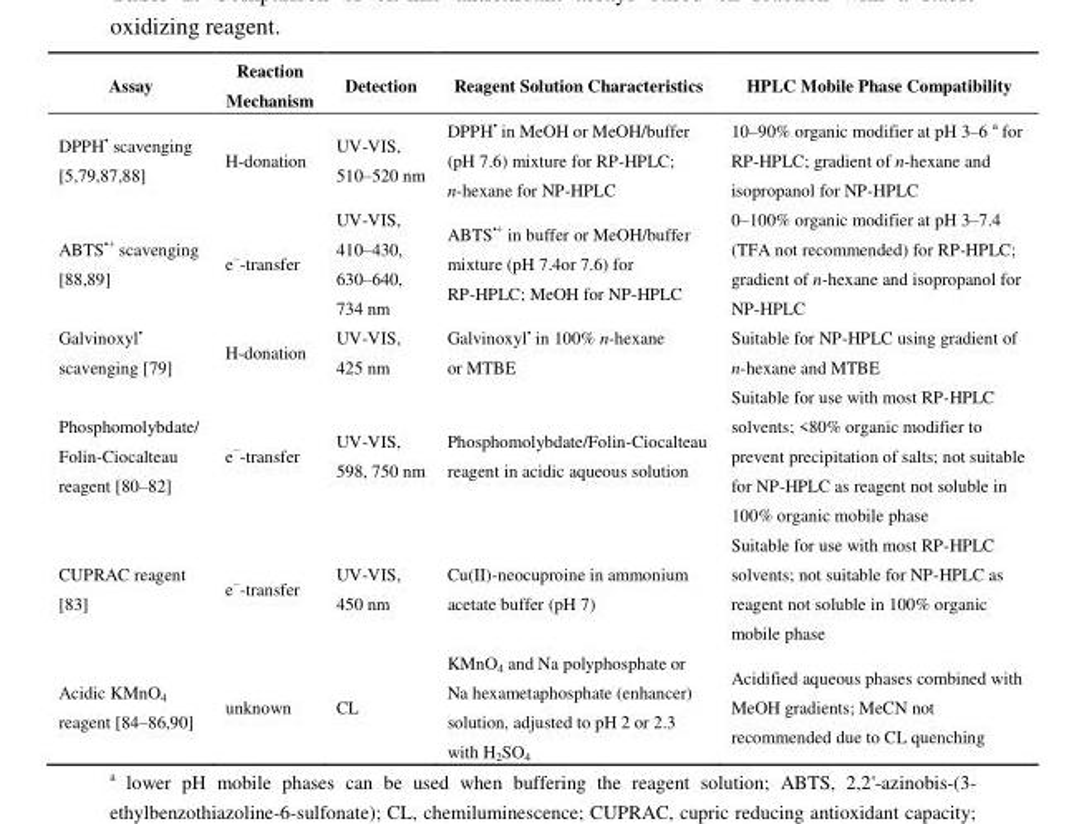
<table><thead><tr><td>Assay</td><td>Reaction Mechanism</td><td>Detection</td><td>Reagent Solution Characteristics</td><td>HPLC Mobile Phase Compatibility</td></tr></thead><tbody><tr><td>DPPH<sup>•</sup> scavenging [5,79,87,88]</td><td>H-donation</td><td>UV-VIS, 510–520 nm</td><td>DPPH<sup>•</sup> in MeOH or MeOH/buffer (pH 7.6) mixture for RP-HPLC; n-hexane for NP-HPLC</td><td>10–90% organic modifier at pH 3–6 a for RP-HPLC; gradient of n-hexane and isopropanol for NP-HPLC</td></tr><tr><td>ABTS<sup>•+</sup> scavenging [88,89]</td><td>e<sup>−</sup>-transfer</td><td>UV-VIS, 410–430, 630–640, 734 nm</td><td>ABTS<sup>•+</sup> in buffer or MeOH/buffer mixture (pH 7.4or 7.6) for RP-HPLC; MeOH for NP-HPLC</td><td>0–100% organic modifier at pH 3–7.4 (TFA not recommended) for RP-HPLC; gradient of n-hexane and isopropanol for NP-HPLC</td></tr><tr><td>Galvinoxyl<sup>•</sup> scavenging [79]</td><td>H-donation</td><td>UV-VIS, 425 nm</td><td>Galvinoxyl<sup>•</sup> in 100% n-hexane or MTBE</td><td>Suitable for NP-HPLC using gradient of n-hexane and MTBE</td></tr><tr><td>Phosphomolybdate/ Folin-Ciocalteau reagent [80–82]</td><td>e<sup>−</sup>-transfer</td><td>UV-VIS, 598, 750 nm</td><td>Phosphomolybdate/Folin-Ciocalteau reagent in acidic aqueous solution</td><td>Suitable for use with most RP-HPLC solvents; &lt;80% organic modifier to prevent precipitation of salts; not suitable for NP-HPLC as reagent not soluble in 100% organic mobile phase</td></tr><tr><td>CUPRAC reagent [83]</td><td>e<sup>−</sup>-transfer</td><td>UV-VIS, 450 nm</td><td>Cu(II)-neocuproine in ammonium acetate buffer (pH 7)</td><td>Suitable for use with most RP-HPLC solvents; not suitable for NP-HPLC as reagent not soluble in 100% organic mobile phase</td></tr><tr><td>Acidic KMnO<sub>4</sub> reagent [84–86,90]</td><td>unknown</td><td>CL</td><td>KMnO<sub>4</sub> and Na polyphosphate or Na hexametaphosphate (enhancer) solution, adjusted to pH 2 or 2.3 with H<sub>2</sub>SO<sub>4</sub></td><td>Acidified aqueous phases combined with MeOH gradients; MeCN not recommended due to CL quenching</td></tr></tbody></table>